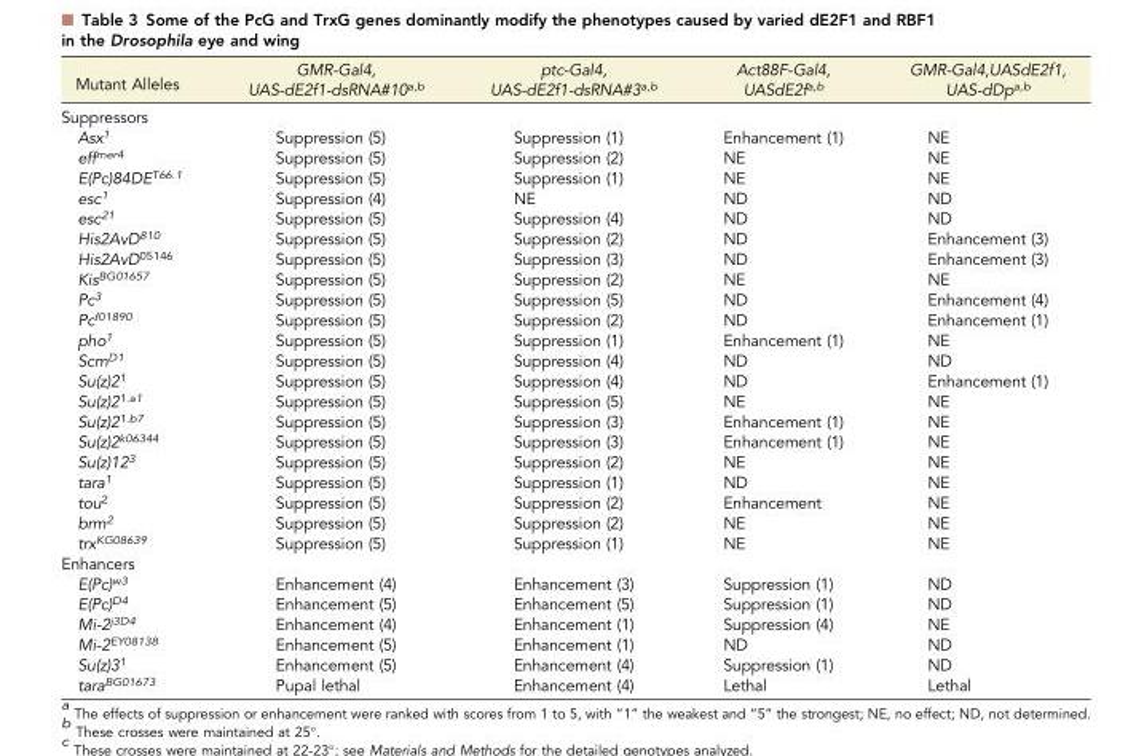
<table><thead><tr><td>Mutant Alleles</td><td>GMR-Gal4, UAS-dE2f1-dsRNA#10<sup>a,b</sup></td><td>ptc-Gal4, UAS-dE2f1-dsRNA#3<sup>a,b</sup></td><td>Act88F-Gal4, UASdE2f<sup>a,b</sup></td><td>GMR-Gal4,UASdE2f1, UAS-dDp<sup>a,b</sup></td></tr></thead><tbody><tr><td colspan="5">Suppressors</td></tr><tr><td>Asx<sup>1</sup></td><td>Suppression (5)</td><td>Suppression (1)</td><td>Enhancement (1)</td><td>NE</td></tr><tr><td>eff<sup>mer4</sup></td><td>Suppression (5)</td><td>Suppression (2)</td><td>NE</td><td>NE</td></tr><tr><td>E(Pc)84DE<sup>T66.1</sup></td><td>Suppression (5)</td><td>Suppression (1)</td><td>NE</td><td>NE</td></tr><tr><td>esc<sup>1</sup></td><td>Suppression (4)</td><td>NE</td><td>ND</td><td>ND</td></tr><tr><td>esc<sup>21</sup></td><td>Suppression (5)</td><td>Suppression (4)</td><td>ND</td><td>ND</td></tr><tr><td>His2AvD<sup>810</sup></td><td>Suppression (5)</td><td>Suppression (2)</td><td>ND</td><td>Enhancement (3)</td></tr><tr><td>His2AvD<sup>05146</sup></td><td>Suppression (5)</td><td>Suppression (3)</td><td>ND</td><td>Enhancement (3)</td></tr><tr><td>Kis<sup>BG01657</sup></td><td>Suppression (5)</td><td>Suppression (2)</td><td>NE</td><td>NE</td></tr><tr><td>Pc<sup>3</sup></td><td>Suppression (5)</td><td>Suppression (5)</td><td>ND</td><td>Enhancement (4)</td></tr><tr><td>Pc<sup>f01890</sup></td><td>Suppression (5)</td><td>Suppression (2)</td><td>ND</td><td>Enhancement (1)</td></tr><tr><td>pho<sup>1</sup></td><td>Suppression (5)</td><td>Suppression (1)</td><td>Enhancement (1)</td><td>NE</td></tr><tr><td>Scm<sup>D1</sup></td><td>Suppression (5)</td><td>Suppression (4)</td><td>ND</td><td>ND</td></tr><tr><td>Su(z)2<sup>1</sup></td><td>Suppression (5)</td><td>Suppression (4)</td><td>ND</td><td>Enhancement (1)</td></tr><tr><td>Su(z)2<sup>1.a1</sup></td><td>Suppression (5)</td><td>Suppression (5)</td><td>NE</td><td>NE</td></tr><tr><td>Su(z)2<sup>1.b7</sup></td><td>Suppression (5)</td><td>Suppression (3)</td><td>Enhancement (1)</td><td>NE</td></tr><tr><td>Su(z)2<sup>k06344</sup></td><td>Suppression (5)</td><td>Suppression (3)</td><td>Enhancement (1)</td><td>NE</td></tr><tr><td>Su(z)12<sup>3</sup></td><td>Suppression (5)</td><td>Suppression (2)</td><td>NE</td><td>NE</td></tr><tr><td>tara<sup>1</sup></td><td>Suppression (5)</td><td>Suppression (1)</td><td>ND</td><td>NE</td></tr><tr><td>tou<sup>2</sup></td><td>Suppression (5)</td><td>Suppression (2)</td><td>Enhancement</td><td>NE</td></tr><tr><td>brm<sup>2</sup></td><td>Suppression (5)</td><td>Suppression (2)</td><td>NE</td><td>NE</td></tr><tr><td>trx<sup>KG08639</sup></td><td>Suppression (5)</td><td>Suppression (1)</td><td>NE</td><td>NE</td></tr><tr><td colspan="5">Enhancers</td></tr><tr><td>E(Pc)<sup>w3</sup></td><td>Enhancement (4)</td><td>Enhancement (3)</td><td>Suppression (1)</td><td>ND</td></tr><tr><td>E(Pc)<sup>D4</sup></td><td>Enhancement (5)</td><td>Enhancement (5)</td><td>Suppression (1)</td><td>ND</td></tr><tr><td>Mi-2<sup>j3D4</sup></td><td>Enhancement (4)</td><td>Enhancement (1)</td><td>Suppression (4)</td><td>NE</td></tr><tr><td>Mi-2<sup>EY08138</sup></td><td>Enhancement (5)</td><td>Enhancement (1)</td><td>ND</td><td>ND</td></tr><tr><td>Su(z)3<sup>1</sup></td><td>Enhancement (5)</td><td>Enhancement (4)</td><td>Suppression (1)</td><td>ND</td></tr><tr><td>tara<sup>BG01673</sup></td><td>Pupal lethal</td><td>Enhancement (4)</td><td>Lethal</td><td>Lethal</td></tr></tbody></table>